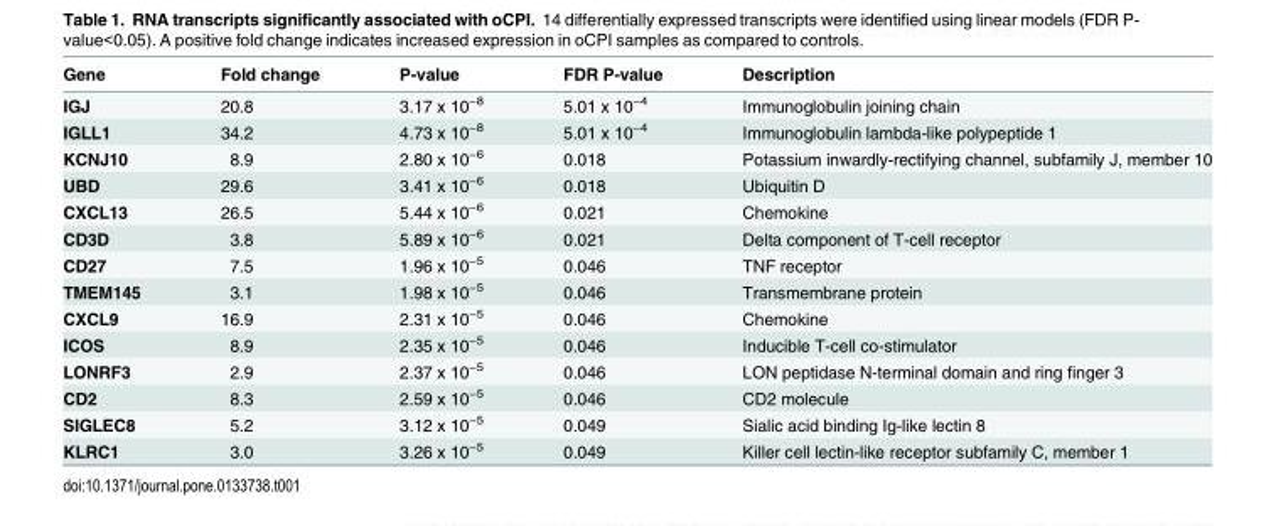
<table><thead><tr><td>Gene</td><td>Fold change</td><td>P-value</td><td>FDR P-value</td><td>Description</td></tr></thead><tbody><tr><td>IGJ</td><td>20.8</td><td>3.17 x 10<sup>−8</sup></td><td>5.01 x 10<sup>−4</sup></td><td>Immunoglobulin joining chain</td></tr><tr><td>IGLL1</td><td>34.2</td><td>4.73 x 10<sup>−8</sup></td><td>5.01 x 10<sup>−4</sup></td><td>Immunoglobulin lambda-like polypeptide 1</td></tr><tr><td>KCNJ10</td><td>8.9</td><td>2.80 x 10<sup>−6</sup></td><td>0.018</td><td>Potassium inwardly-rectifying channel, subfamily J, member 10</td></tr><tr><td>UBD</td><td>29.6</td><td>3.41 x 10<sup>−6</sup></td><td>0.018</td><td>Ubiquitin D</td></tr><tr><td>CXCL13</td><td>26.5</td><td>5.44 x 10<sup>−6</sup></td><td>0.021</td><td>Chemokine</td></tr><tr><td>CD3D</td><td>3.8</td><td>5.89 x 10<sup>−6</sup></td><td>0.021</td><td>Delta component of T-cell receptor</td></tr><tr><td>CD27</td><td>7.5</td><td>1.96 x 10<sup>−5</sup></td><td>0.046</td><td>TNF receptor</td></tr><tr><td>TMEM145</td><td>3.1</td><td>1.98 x 10<sup>−5</sup></td><td>0.046</td><td>Transmembrane protein</td></tr><tr><td>CXCL9</td><td>16.9</td><td>2.31 x 10<sup>−5</sup></td><td>0.046</td><td>Chemokine</td></tr><tr><td>ICOS</td><td>8.9</td><td>2.35 x 10<sup>−5</sup></td><td>0.046</td><td>Inducible T-cell co-stimulator</td></tr><tr><td>LONRF3</td><td>2.9</td><td>2.37 x 10<sup>−5</sup></td><td>0.046</td><td>LON peptidase N-terminal domain and ring finger 3</td></tr><tr><td>CD2</td><td>8.3</td><td>2.59 x 10<sup>−5</sup></td><td>0.046</td><td>CD2 molecule</td></tr><tr><td>SIGLEC8</td><td>5.2</td><td>3.12 x 10<sup>−5</sup></td><td>0.049</td><td>Sialic acid binding Ig-like lectin 8</td></tr><tr><td>KLRC1</td><td>3.0</td><td>3.26 x 10<sup>−5</sup></td><td>0.049</td><td>Killer cell lectin-like receptor subfamily C, member 1</td></tr></tbody></table>